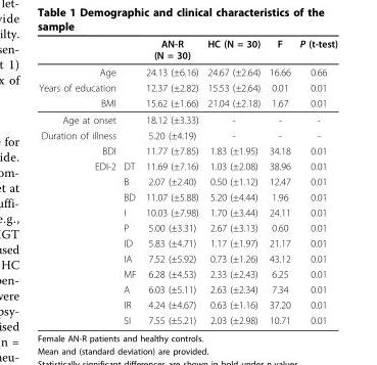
<table><thead><tr><td></td><td></td><td>AN-R (N = 30)</td><td>HC (N = 30)</td><td>F</td><td>P (t-test)</td></tr></thead><tbody><tr><td>Age</td><td></td><td>24.13 (±6.16)</td><td>24.67 (±2.64)</td><td>16.66</td><td>0.66</td></tr><tr><td>Years of education</td><td></td><td>12.37 (±2.82)</td><td>15.53 (±2.64)</td><td>0.01</td><td>0.01</td></tr><tr><td>BMI</td><td></td><td>15.62 (±1.66)</td><td>21.04 (±2.18)</td><td>1.67</td><td>0.01</td></tr><tr><td>Age at onset</td><td></td><td>18.12 (±3.33)</td><td>-</td><td>-</td><td>-</td></tr><tr><td>Duration of illness</td><td></td><td>5.20 (±4.19)</td><td>-</td><td>-</td><td>-</td></tr><tr><td>BDI</td><td></td><td>11.77 (±7.85)</td><td>1.83 (±1.95)</td><td>34.18</td><td>0.01</td></tr><tr><td rowspan="11">EDI-2</td><td>DT</td><td>11.69 (±7.16)</td><td>1.03 (±2.08)</td><td>38.96</td><td>0.01</td></tr><tr><td>B</td><td>2.07 (±2.40)</td><td>0.50 (±1.12)</td><td>12.47</td><td>0.01</td></tr><tr><td>BD</td><td>11.07 (±5.88)</td><td>5.20 (±4.44)</td><td>1.96</td><td>0.01</td></tr><tr><td>I</td><td>10.03 (±7.98)</td><td>1.70 (±3.44)</td><td>24.11</td><td>0.01</td></tr><tr><td>P</td><td>5.00 (±3.31)</td><td>2.67 (±3.13)</td><td>0.60</td><td>0.01</td></tr><tr><td>ID</td><td>5.83 (±4.71)</td><td>1.17 (±1.97)</td><td>21.17</td><td>0.01</td></tr><tr><td>IA</td><td>7.52 (±5.92)</td><td>0.73 (±1.26)</td><td>43.12</td><td>0.01</td></tr><tr><td>MF</td><td>6.28 (±4.53)</td><td>2.33 (±2.43)</td><td>6.25</td><td>0.01</td></tr><tr><td>A</td><td>6.03 (±5.11)</td><td>2.63 (±2.34)</td><td>7.34</td><td>0.01</td></tr><tr><td>IR</td><td>4.24 (±4.67)</td><td>0.63 (±1.16)</td><td>37.20</td><td>0.01</td></tr><tr><td>SI</td><td>7.55 (±5.21)</td><td>2.03 (±2.98)</td><td>10.71</td><td>0.01</td></tr></tbody></table>